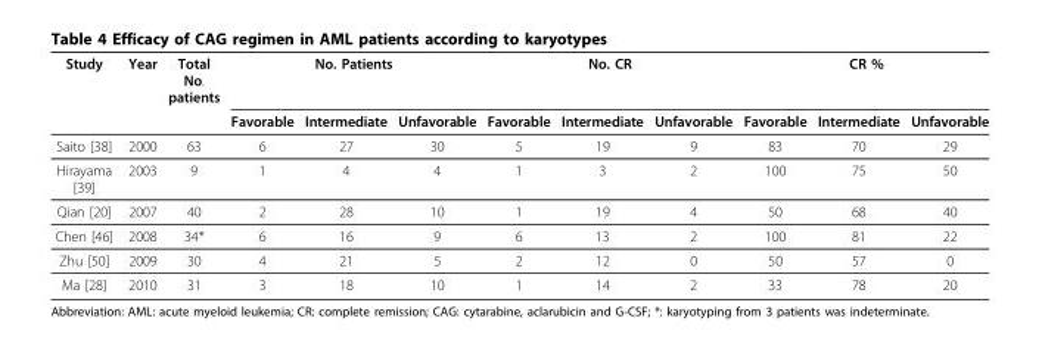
<table><tbody><tr><td rowspan="2">Study</td><td>Year</td><td>Total No. patients</td><td colspan="3">No. Patients</td><td colspan="3">No. CR</td><td colspan="3">CR %</td></tr><tr><td></td><td></td><td>Favorable</td><td>Intermediate</td><td>Unfavorable</td><td>Favorable</td><td>Intermediate</td><td>Unfavorable</td><td>Favorable</td><td>Intermediate</td><td>Unfavorable</td></tr><tr><td>Saito [38]</td><td>2000</td><td>63</td><td>6</td><td>27</td><td>30</td><td>5</td><td>19</td><td>9</td><td>83</td><td>70</td><td>29</td></tr><tr><td>Hirayama [39]</td><td>2003</td><td>9</td><td>1</td><td>4</td><td>4</td><td>1</td><td>3</td><td>2</td><td>100</td><td>75</td><td>50</td></tr><tr><td>Qian [20]</td><td>2007</td><td>40</td><td>2</td><td>28</td><td>10</td><td>1</td><td>19</td><td>4</td><td>50</td><td>68</td><td>40</td></tr><tr><td>Chen [46]</td><td>2008</td><td>34*</td><td>6</td><td>16</td><td>9</td><td>6</td><td>13</td><td>2</td><td>100</td><td>81</td><td>22</td></tr><tr><td>Zhu [50]</td><td>2009</td><td>30</td><td>4</td><td>21</td><td>5</td><td>2</td><td>12</td><td>0</td><td>50</td><td>57</td><td>0</td></tr><tr><td>Ma [28]</td><td>2010</td><td>31</td><td>3</td><td>18</td><td>10</td><td>1</td><td>14</td><td>2</td><td>33</td><td>78</td><td>20</td></tr></tbody></table>